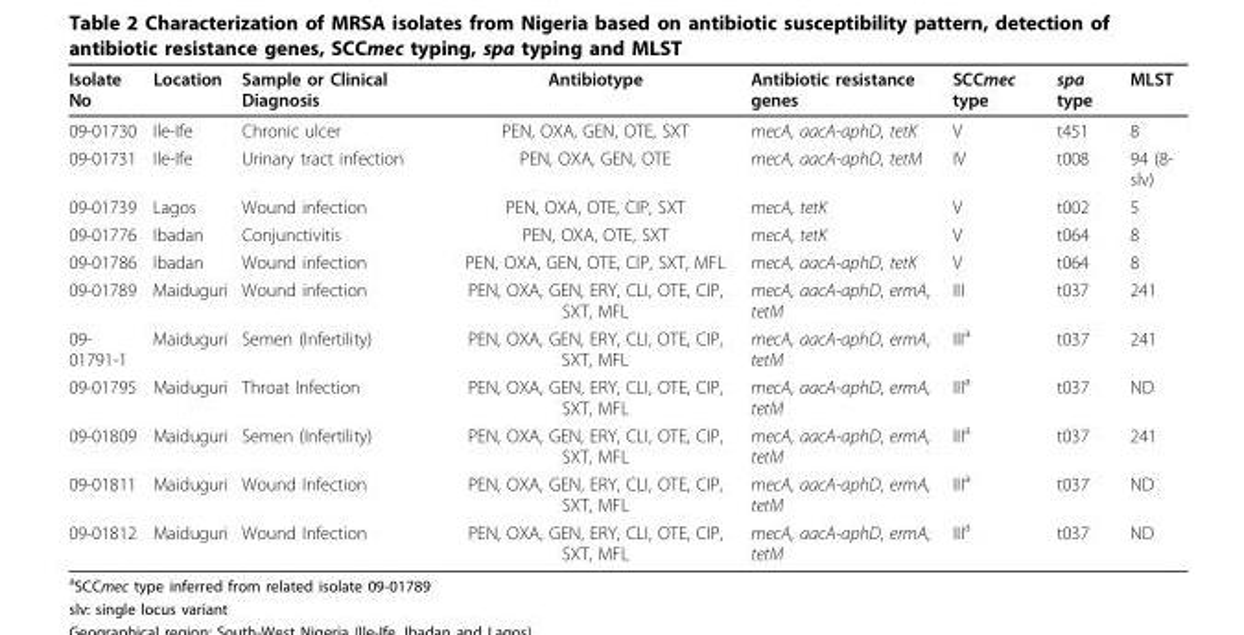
<table><thead><tr><td>Isolate No</td><td>Location</td><td>Sample or Clinical Diagnosis</td><td>Antibiotype</td><td>Antibiotic resistance genes</td><td>SCCmec type</td><td>spa type</td><td>MLST</td></tr></thead><tbody><tr><td>09-01730</td><td>Ile-Ife</td><td>Chronic ulcer</td><td>PEN, OXA, GEN, OTE, SXT</td><td>mecA, aacA-aphD, tetK</td><td>V</td><td>t451</td><td>8</td></tr><tr><td>09-01731</td><td>Ile-Ife</td><td>Urinary tract infection</td><td>PEN, OXA, GEN, OTE</td><td>mecA, aacA-aphD, tetM</td><td>IV</td><td>t008</td><td>94 (8- slv)</td></tr><tr><td>09-01739</td><td>Lagos</td><td>Wound infection</td><td>PEN, OXA, OTE, CIP, SXT</td><td>mecA, tetK</td><td>V</td><td>t002</td><td>5</td></tr><tr><td>09-01776</td><td>Ibadan</td><td>Conjunctivitis</td><td>PEN, OXA, OTE, SXT</td><td>mecA, tetK</td><td>V</td><td>t064</td><td>8</td></tr><tr><td>09-01786</td><td>Ibadan</td><td>Wound infection</td><td>PEN, OXA, GEN, OTE, CIP, SXT, MFL</td><td>mecA, aacA-aphD, tetK</td><td>V</td><td>t064</td><td>8</td></tr><tr><td>09-01789</td><td>Maiduguri</td><td>Wound infection</td><td>PEN, OXA, GEN, ERY, CLI, OTE, CIP, SXT, MFL</td><td>mecA, aacA-aphD, ermA, tetM</td><td>III</td><td>t037</td><td>241</td></tr><tr><td>09- 01791-1</td><td>Maiduguri</td><td>Semen (Infertility)</td><td>PEN, OXA, GEN, ERY, CLI, OTE, CIP, SXT, MFL</td><td>mecA, aacA-aphD, ermA, tetM</td><td>III<sup>a</sup></td><td>t037</td><td>241</td></tr><tr><td>09-01795</td><td>Maiduguri</td><td>Throat Infection</td><td>PEN, OXA, GEN, ERY, CLI, OTE, CIP, SXT, MFL</td><td>mecA, aacA-aphD, ermA, tetM</td><td>III<sup>a</sup></td><td>t037</td><td>ND</td></tr><tr><td>09-01809</td><td>Maiduguri</td><td>Semen (Infertility)</td><td>PEN, OXA, GEN, ERY, CLI, OTE, CIP, SXT, MFL</td><td>mecA, aacA-aphD, ermA, tetM</td><td>III<sup>a</sup></td><td>t037</td><td>241</td></tr><tr><td>09-01811</td><td>Maiduguri</td><td>Wound Infection</td><td>PEN, OXA, GEN, ERY, CLI, OTE, CIP, SXT, MFL</td><td>mecA, aacA-aphD, ermA, tetM</td><td>III<sup>a</sup></td><td>t037</td><td>ND</td></tr><tr><td>09-01812</td><td>Maiduguri</td><td>Wound Infection</td><td>PEN, OXA, GEN, ERY, CLI, OTE, CIP, SXT, MFL</td><td>mecA, aacA-aphD, ermA, tetM</td><td>III<sup>a</sup></td><td>t037</td><td>ND</td></tr></tbody></table>